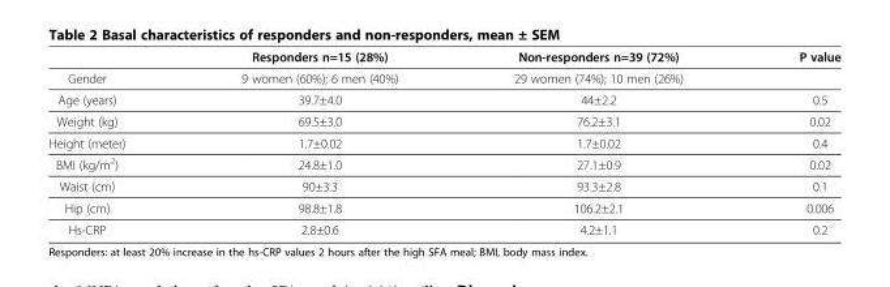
<table><thead><tr><td></td><td>Responders n=15 (28%)</td><td>Non-responders n=39 (72%)</td><td>P value</td></tr></thead><tbody><tr><td>Gender</td><td>9 women (60%); 6 men (40%)</td><td>29 women (74%); 10 men (26%)</td><td></td></tr><tr><td>Age (years)</td><td>39.7±4.0</td><td>44±2.2</td><td>0.5</td></tr><tr><td>Weight (kg)</td><td>69.5±3.0</td><td>76.2±3.1</td><td>0.02</td></tr><tr><td>Height (meter)</td><td>1.7±0.02</td><td>1.7±0.02</td><td>0.4</td></tr><tr><td>BMI (kg/m<sup>2</sup>)</td><td>24.8±1.0</td><td>27.1±0.9</td><td>0.02</td></tr><tr><td>Waist (cm)</td><td>90±3.3</td><td>93.3±2.8</td><td>0.1</td></tr><tr><td>Hip (cm)</td><td>98.8±1.8</td><td>106.2±2.1</td><td>0.006</td></tr><tr><td>Hs-CRP</td><td>2.8±0.6</td><td>4.2±1.1</td><td>0.2</td></tr></tbody></table>